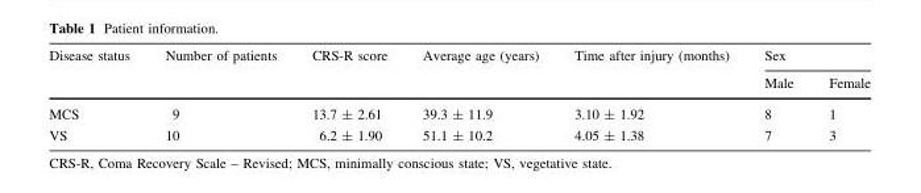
<table><thead><tr><td rowspan="2">Disease status</td><td rowspan="2">Number of patients</td><td rowspan="2">CRS-R score</td><td rowspan="2">Average age (years)</td><td rowspan="2">Time after injury (months)</td><td colspan="2">Sex</td></tr><tr><td>Male</td><td>Female</td></tr></thead><tbody><tr><td>MCS</td><td>9</td><td>13.7 ± 2.61</td><td>39.3 ± 11.9</td><td>3.10 ± 1.92</td><td>8</td><td>1</td></tr><tr><td>VS</td><td>10</td><td>6.2 ± 1.90</td><td>51.1 ± 10.2</td><td>4.05 ± 1.38</td><td>7</td><td>3</td></tr></tbody></table>